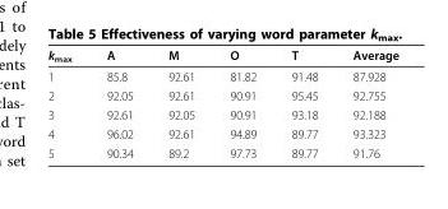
<table><thead><tr><td>k<sub>max</sub></td><td>A</td><td>M</td><td>O</td><td>T</td><td>Average</td></tr></thead><tbody><tr><td>1</td><td>85.8</td><td>92.61</td><td>81.82</td><td>91.48</td><td>87.928</td></tr><tr><td>2</td><td>92.05</td><td>92.61</td><td>90.91</td><td>95.45</td><td>92.755</td></tr><tr><td>3</td><td>92.61</td><td>92.05</td><td>90.91</td><td>93.18</td><td>92.188</td></tr><tr><td>4</td><td>96.02</td><td>92.61</td><td>94.89</td><td>89.77</td><td>93.323</td></tr><tr><td>5</td><td>90.34</td><td>89.2</td><td>97.73</td><td>89.77</td><td>91.76</td></tr></tbody></table>